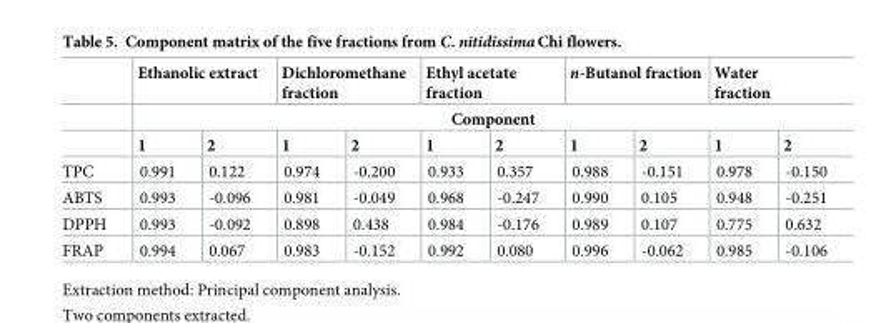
<table><thead><tr><td rowspan="3"></td><td colspan="2">Ethanolic extract</td><td colspan="2">Dichloromethane fraction</td><td colspan="2">Ethyl acetate fraction</td><td colspan="2">n-Butanol fraction</td><td colspan="2">Water fraction</td></tr><tr><td colspan="10">Component</td></tr><tr><td>1</td><td>2</td><td>1</td><td>2</td><td>1</td><td>2</td><td>1</td><td>2</td><td>1</td><td>2</td></tr></thead><tbody><tr><td>TPC</td><td>0.991</td><td>0.122</td><td>0.974</td><td>-0.200</td><td>0.933</td><td>0.357</td><td>0.988</td><td>-0.151</td><td>0.978</td><td>-0.150</td></tr><tr><td>ABTS</td><td>0.993</td><td>-0.096</td><td>0.981</td><td>-0.049</td><td>0.968</td><td>-0.247</td><td>0.990</td><td>0.105</td><td>0.948</td><td>-0.251</td></tr><tr><td>DPPH</td><td>0.993</td><td>-0.092</td><td>0.898</td><td>0.438</td><td>0.984</td><td>-0.176</td><td>0.989</td><td>0.107</td><td>0.775</td><td>0.632</td></tr><tr><td>FRAP</td><td>0.994</td><td>0.067</td><td>0.983</td><td>-0.152</td><td>0.992</td><td>0.080</td><td>0.996</td><td>-0.062</td><td>0.985</td><td>-0.106</td></tr></tbody></table>